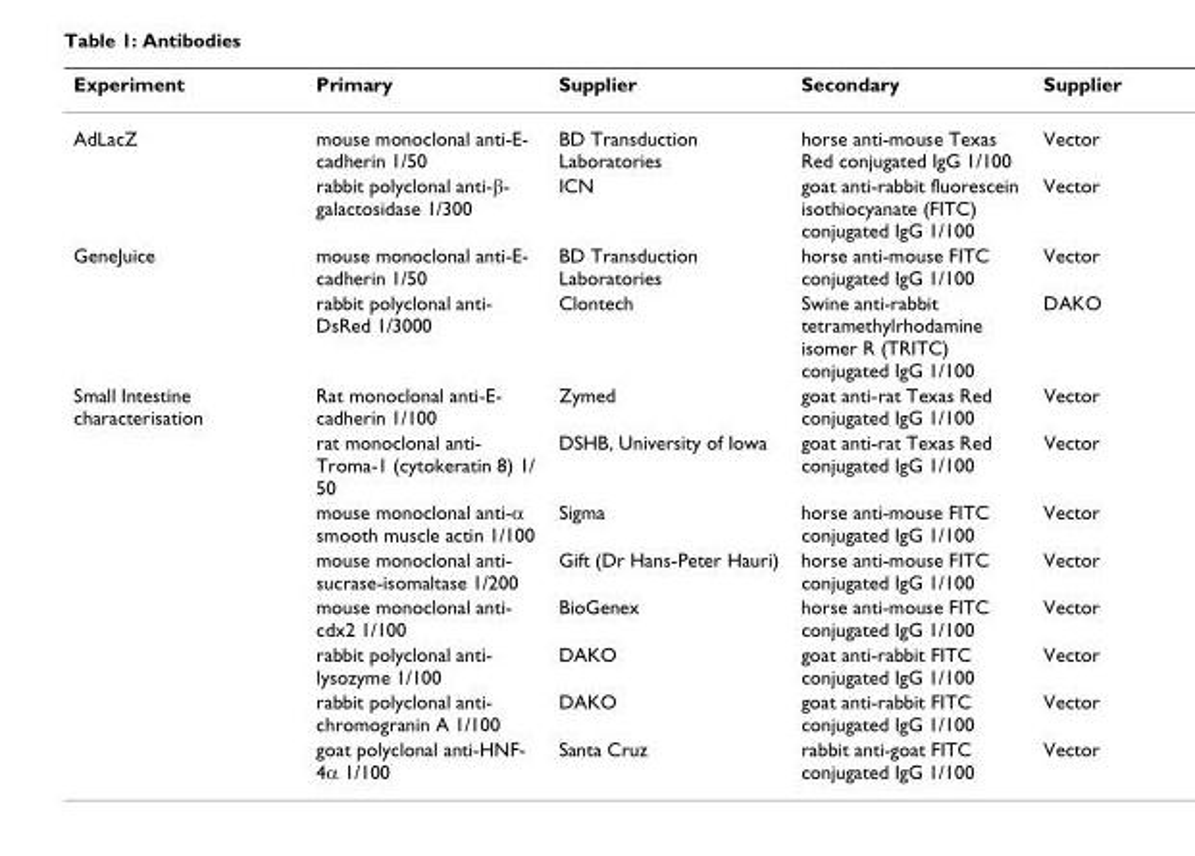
<table><thead><tr><td>Experiment</td><td>Primary</td><td>Supplier</td><td>Secondary</td><td>Supplier</td></tr></thead><tbody><tr><td rowspan="2">AdLacZ</td><td>mouse monoclonal anti-E- cadherin 1/50</td><td>BD Transduction Laboratories</td><td>horse anti-mouse Texas Red conjugated IgG 1/100</td><td>Vector</td></tr><tr><td>rabbit polyclonal anti-β- galactosidase 1/300</td><td>ICN</td><td>goat anti-rabbit fluorescein isothiocyanate (FITC) conjugated IgG 1/100</td><td>Vector</td></tr><tr><td rowspan="2">GeneJuice</td><td>mouse monoclonal anti-E- cadherin 1/50</td><td>BD Transduction Laboratories</td><td>horse anti-mouse FITC conjugated IgG 1/100</td><td>Vector</td></tr><tr><td>rabbit polyclonal anti- DsRed 1/3000</td><td>Clontech</td><td>Swine anti-rabbit tetramethylrhodamine isomer R (TRITC) conjugated IgG 1/100</td><td>DAKO</td></tr><tr><td rowspan="8">Small Intestine characterisation</td><td>Rat monoclonal anti-E- cadherin 1/100</td><td>Zymed</td><td>goat anti-rat Texas Red conjugated IgG 1/100</td><td>Vector</td></tr><tr><td>rat monoclonal anti- Troma-1 (cytokeratin 8) 1/ 50</td><td>DSHB, University of Iowa</td><td>goat anti-rat Texas Red conjugated IgG 1/100</td><td>Vector</td></tr><tr><td>mouse monoclonal anti-α smooth muscle actin 1/100</td><td>Sigma</td><td>horse anti-mouse FITC conjugated IgG 1/100</td><td>Vector</td></tr><tr><td>mouse monoclonal anti- sucrase-isomaltase 1/200</td><td>Gift (Dr Hans-Peter Hauri)</td><td>horse anti-mouse FITC conjugated IgG 1/100</td><td>Vector</td></tr><tr><td>mouse monoclonal anti- cdx2 1/100</td><td>BioGenex</td><td>horse anti-mouse FITC conjugated IgG 1/100</td><td>Vector</td></tr><tr><td>rabbit polyclonal anti- lysozyme 1/100</td><td>DAKO</td><td>goat anti-rabbit FITC conjugated IgG 1/100</td><td>Vector</td></tr><tr><td>rabbit polyclonal anti- chromogranin A 1/100</td><td>DAKO</td><td>goat anti-rabbit FITC conjugated IgG 1/100</td><td>Vector</td></tr><tr><td>goat polyclonal anti-HNF- 4α 1/100</td><td>Santa Cruz</td><td>rabbit anti-goat FITC conjugated IgG 1/100</td><td>Vector</td></tr></tbody></table>